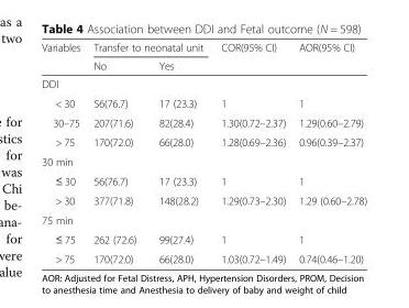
<table><thead><tr><td rowspan="2">Variables</td><td colspan="2">Transfer to neonatal unit</td><td rowspan="2">COR(95% CI)</td><td rowspan="2">AOR(95% CI)</td></tr><tr><td>No</td><td>Yes</td></tr></thead><tbody><tr><td colspan="5">DDI</td></tr><tr><td>&lt; 30</td><td>56(76.7)</td><td>17 (23.3)</td><td>1</td><td>1</td></tr><tr><td>30–75</td><td>207(71.6)</td><td>82(28.4)</td><td>1.30(0.72–2.37)</td><td>1.29(0.60–2.79)</td></tr><tr><td>&gt; 75</td><td>170(72.0)</td><td>66(28.0)</td><td>1.28(0.69–2.36)</td><td>0.96(0.39–2.37)</td></tr><tr><td colspan="5">30 min</td></tr><tr><td>≤ 30</td><td>56(76.7)</td><td>17 (23.3)</td><td>1</td><td>1</td></tr><tr><td>&gt; 30</td><td>377(71.8)</td><td>148(28.2)</td><td>1.29(0.73–2.30)</td><td>1.29 (0.60–2.78)</td></tr><tr><td colspan="5">75 min</td></tr><tr><td>≤ 75</td><td>262 (72.6)</td><td>99(27.4)</td><td>1</td><td>1</td></tr><tr><td>&gt; 75</td><td>170(72.0)</td><td>66(28.0)</td><td>1.03(0.72–1.49)</td><td>0.74(0.46–1.20)</td></tr></tbody></table>